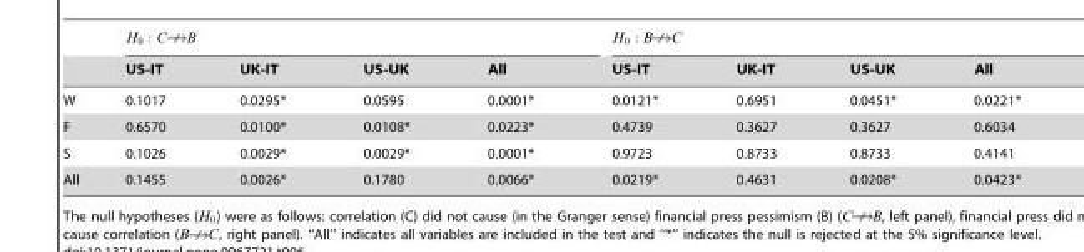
<table><thead><tr><td></td><td>US-IT</td><td>UK-IT</td><td>US-UK</td><td>All</td><td>US-IT</td><td>UK-IT</td><td>US-UK</td><td>All</td></tr></thead><tbody><tr><td>W</td><td>0.1017</td><td>0.0295*</td><td>0.0595</td><td>0.0001*</td><td>0.0121*</td><td>0.6951</td><td>0.0451*</td><td>0.0221*</td></tr><tr><td>F</td><td>0.6570</td><td>0.0100*</td><td>0.0108*</td><td>0.0223*</td><td>0.4739</td><td>0.3627</td><td>0.3627</td><td>0.6034</td></tr><tr><td>S</td><td>0.1026</td><td>0.0029*</td><td>0.0029*</td><td>0.0001*</td><td>0.9723</td><td>0.8733</td><td>0.8733</td><td>0.4141</td></tr><tr><td>All</td><td>0.1455</td><td>0.0026*</td><td>0.1780</td><td>0.0066*</td><td>0.0219*</td><td>0.4631</td><td>0.0208*</td><td>0.0423*</td></tr></tbody></table>